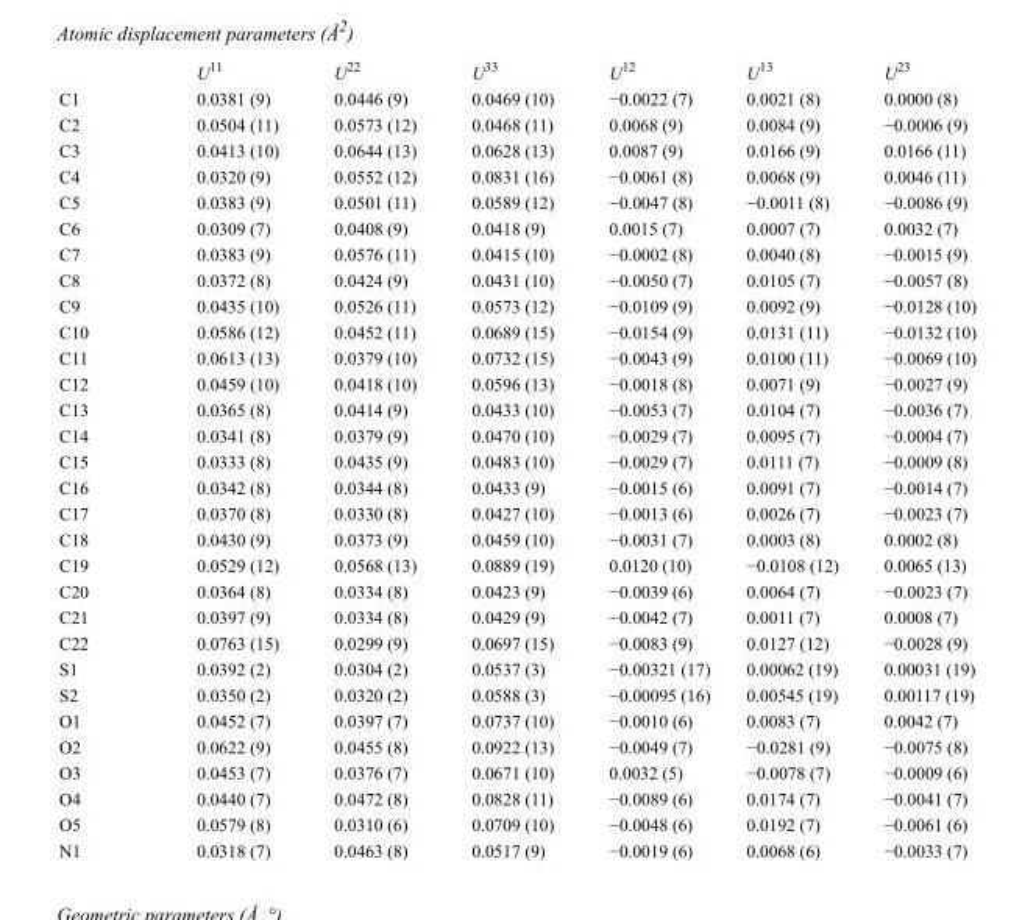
<table><thead><tr><td></td><td>U<sup>11</sup></td><td>U<sup>22</sup></td><td>U<sup>33</sup></td><td>U<sup>12</sup></td><td>U<sup>13</sup></td><td>U<sup>23</sup></td></tr></thead><tbody><tr><td>C1</td><td>0.0381 (9)</td><td>0.0446 (9)</td><td>0.0469 (10)</td><td>−0.0022 (7)</td><td>0.0021 (8)</td><td>0.0000 (8)</td></tr><tr><td>C2</td><td>0.0504 (11)</td><td>0.0573 (12)</td><td>0.0468 (11)</td><td>0.0068 (9)</td><td>0.0084 (9)</td><td>−0.0006 (9)</td></tr><tr><td>C3</td><td>0.0413 (10)</td><td>0.0644 (13)</td><td>0.0628 (13)</td><td>0.0087 (9)</td><td>0.0166 (9)</td><td>0.0166 (11)</td></tr><tr><td>C4</td><td>0.0320 (9)</td><td>0.0552 (12)</td><td>0.0831 (16)</td><td>−0.0061 (8)</td><td>0.0068 (9)</td><td>0.0046 (11)</td></tr><tr><td>C5</td><td>0.0383 (9)</td><td>0.0501 (11)</td><td>0.0589 (12)</td><td>−0.0047 (8)</td><td>−0.0011 (8)</td><td>−0.0086 (9)</td></tr><tr><td>C6</td><td>0.0309 (7)</td><td>0.0408 (9)</td><td>0.0418 (9)</td><td>0.0015 (7)</td><td>0.0007 (7)</td><td>0.0032 (7)</td></tr><tr><td>C7</td><td>0.0383 (9)</td><td>0.0576 (11)</td><td>0.0415 (10)</td><td>−0.0002 (8)</td><td>0.0040 (8)</td><td>−0.0015 (9)</td></tr><tr><td>C8</td><td>0.0372 (8)</td><td>0.0424 (9)</td><td>0.0431 (10)</td><td>−0.0050 (7)</td><td>0.0105 (7)</td><td>−0.0057 (8)</td></tr><tr><td>C9</td><td>0.0435 (10)</td><td>0.0526 (11)</td><td>0.0573 (12)</td><td>−0.0109 (9)</td><td>0.0092 (9)</td><td>−0.0128 (10)</td></tr><tr><td>C10</td><td>0.0586 (12)</td><td>0.0452 (11)</td><td>0.0689 (15)</td><td>−0.0154 (9)</td><td>0.0131 (11)</td><td>−0.0132 (10)</td></tr><tr><td>C11</td><td>0.0613 (13)</td><td>0.0379 (10)</td><td>0.0732 (15)</td><td>−0.0043 (9)</td><td>0.0100 (11)</td><td>−0.0069 (10)</td></tr><tr><td>C12</td><td>0.0459 (10)</td><td>0.0418 (10)</td><td>0.0596 (13)</td><td>−0.0018 (8)</td><td>0.0071 (9)</td><td>−0.0027 (9)</td></tr><tr><td>C13</td><td>0.0365 (8)</td><td>0.0414 (9)</td><td>0.0433 (10)</td><td>−0.0053 (7)</td><td>0.0104 (7)</td><td>−0.0036 (7)</td></tr><tr><td>C14</td><td>0.0341 (8)</td><td>0.0379 (9)</td><td>0.0470 (10)</td><td>−0.0029 (7)</td><td>0.0095 (7)</td><td>−0.0004 (7)</td></tr><tr><td>C15</td><td>0.0333 (8)</td><td>0.0435 (9)</td><td>0.0483 (10)</td><td>−0.0029 (7)</td><td>0.0111 (7)</td><td>−0.0009 (8)</td></tr><tr><td>C16</td><td>0.0342 (8)</td><td>0.0344 (8)</td><td>0.0433 (9)</td><td>−0.0015 (6)</td><td>0.0091 (7)</td><td>−0.0014 (7)</td></tr><tr><td>C17</td><td>0.0370 (8)</td><td>0.0330 (8)</td><td>0.0427 (10)</td><td>−0.0013 (6)</td><td>0.0026 (7)</td><td>−0.0023 (7)</td></tr><tr><td>C18</td><td>0.0430 (9)</td><td>0.0373 (9)</td><td>0.0459 (10)</td><td>−0.0031 (7)</td><td>0.0003 (8)</td><td>0.0002 (8)</td></tr><tr><td>C19</td><td>0.0529 (12)</td><td>0.0568 (13)</td><td>0.0889 (19)</td><td>0.0120 (10)</td><td>−0.0108 (12)</td><td>0.0065 (13)</td></tr><tr><td>C20</td><td>0.0364 (8)</td><td>0.0334 (8)</td><td>0.0423 (9)</td><td>−0.0039 (6)</td><td>0.0064 (7)</td><td>−0.0023 (7)</td></tr><tr><td>C21</td><td>0.0397 (9)</td><td>0.0334 (8)</td><td>0.0429 (9)</td><td>−0.0042 (7)</td><td>0.0011 (7)</td><td>0.0008 (7)</td></tr><tr><td>C22</td><td>0.0763 (15)</td><td>0.0299 (9)</td><td>0.0697 (15)</td><td>−0.0083 (9)</td><td>0.0127 (12)</td><td>−0.0028 (9)</td></tr><tr><td>S1</td><td>0.0392 (2)</td><td>0.0304 (2)</td><td>0.0537 (3)</td><td>−0.00321 (17)</td><td>0.00062 (19)</td><td>0.00031 (19)</td></tr><tr><td>S2</td><td>0.0350 (2)</td><td>0.0320 (2)</td><td>0.0588 (3)</td><td>−0.00095 (16)</td><td>0.00545 (19)</td><td>0.00117 (19)</td></tr><tr><td>O1</td><td>0.0452 (7)</td><td>0.0397 (7)</td><td>0.0737 (10)</td><td>−0.0010 (6)</td><td>0.0083 (7)</td><td>0.0042 (7)</td></tr><tr><td>O2</td><td>0.0622 (9)</td><td>0.0455 (8)</td><td>0.0922 (13)</td><td>−0.0049 (7)</td><td>−0.0281 (9)</td><td>−0.0075 (8)</td></tr><tr><td>O3</td><td>0.0453 (7)</td><td>0.0376 (7)</td><td>0.0671 (10)</td><td>0.0032 (5)</td><td>−0.0078 (7)</td><td>−0.0009 (6)</td></tr><tr><td>O4</td><td>0.0440 (7)</td><td>0.0472 (8)</td><td>0.0828 (11)</td><td>−0.0089 (6)</td><td>0.0174 (7)</td><td>−0.0041 (7)</td></tr><tr><td>O5</td><td>0.0579 (8)</td><td>0.0310 (6)</td><td>0.0709 (10)</td><td>−0.0048 (6)</td><td>0.0192 (7)</td><td>−0.0061 (6)</td></tr><tr><td>N1</td><td>0.0318 (7)</td><td>0.0463 (8)</td><td>0.0517 (9)</td><td>−0.0019 (6)</td><td>0.0068 (6)</td><td>−0.0033 (7)</td></tr></tbody></table>